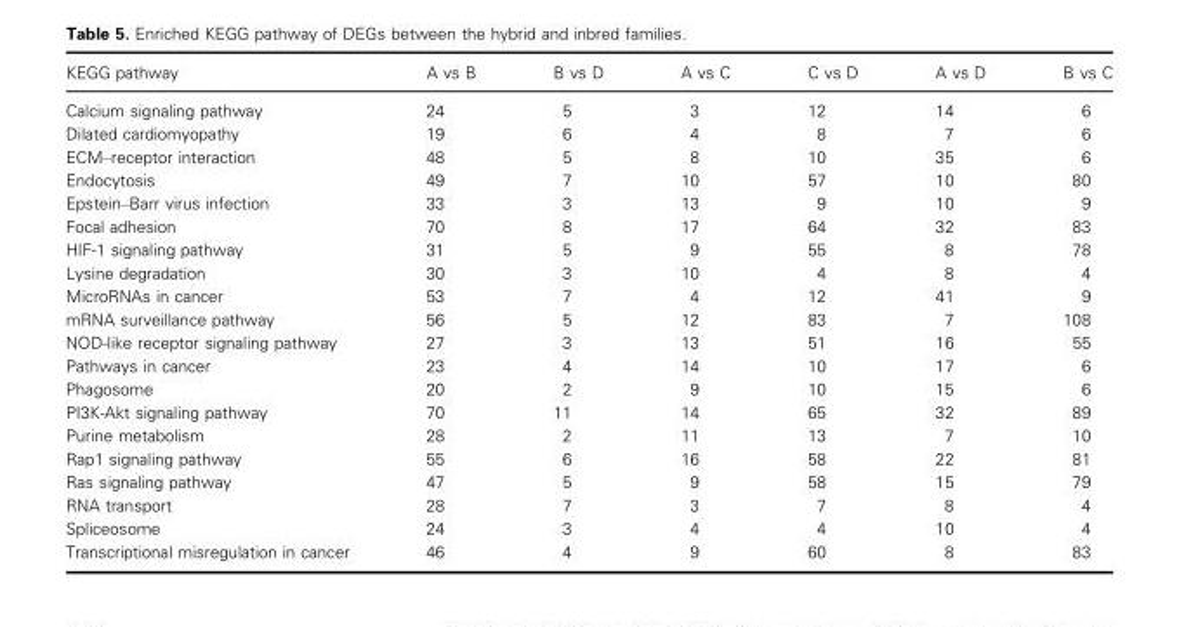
<table><thead><tr><td>KEGG pathway</td><td>A vs B</td><td>B vs D</td><td>A vs C</td><td>C vs D</td><td>A vs D</td><td>B vs C</td></tr></thead><tbody><tr><td>Calcium signaling pathway</td><td>24</td><td>5</td><td>3</td><td>12</td><td>14</td><td>6</td></tr><tr><td>Dilated cardiomyopathy</td><td>19</td><td>6</td><td>4</td><td>8</td><td>7</td><td>6</td></tr><tr><td>ECM–receptor interaction</td><td>48</td><td>5</td><td>8</td><td>10</td><td>35</td><td>6</td></tr><tr><td>Endocytosis</td><td>49</td><td>7</td><td>10</td><td>57</td><td>10</td><td>80</td></tr><tr><td>Epstein–Barr virus infection</td><td>33</td><td>3</td><td>13</td><td>9</td><td>10</td><td>9</td></tr><tr><td>Focal adhesion</td><td>70</td><td>8</td><td>17</td><td>64</td><td>32</td><td>83</td></tr><tr><td>HIF-1 signaling pathway</td><td>31</td><td>5</td><td>9</td><td>55</td><td>8</td><td>78</td></tr><tr><td>Lysine degradation</td><td>30</td><td>3</td><td>10</td><td>4</td><td>8</td><td>4</td></tr><tr><td>MicroRNAs in cancer</td><td>53</td><td>7</td><td>4</td><td>12</td><td>41</td><td>9</td></tr><tr><td>mRNA surveillance pathway</td><td>56</td><td>5</td><td>12</td><td>83</td><td>7</td><td>108</td></tr><tr><td>NOD-like receptor signaling pathway</td><td>27</td><td>3</td><td>13</td><td>51</td><td>16</td><td>55</td></tr><tr><td>Pathways in cancer</td><td>23</td><td>4</td><td>14</td><td>10</td><td>17</td><td>6</td></tr><tr><td>Phagosome</td><td>20</td><td>2</td><td>9</td><td>10</td><td>15</td><td>6</td></tr><tr><td>PI3K-Akt signaling pathway</td><td>70</td><td>11</td><td>14</td><td>65</td><td>32</td><td>89</td></tr><tr><td>Purine metabolism</td><td>28</td><td>2</td><td>11</td><td>13</td><td>7</td><td>10</td></tr><tr><td>Rap1 signaling pathway</td><td>55</td><td>6</td><td>16</td><td>58</td><td>22</td><td>81</td></tr><tr><td>Ras signaling pathway</td><td>47</td><td>5</td><td>9</td><td>58</td><td>15</td><td>79</td></tr><tr><td>RNA transport</td><td>28</td><td>7</td><td>3</td><td>7</td><td>8</td><td>4</td></tr><tr><td>Spliceosome</td><td>24</td><td>3</td><td>4</td><td>4</td><td>10</td><td>4</td></tr><tr><td>Transcriptional misregulation in cancer</td><td>46</td><td>4</td><td>9</td><td>60</td><td>8</td><td>83</td></tr></tbody></table>